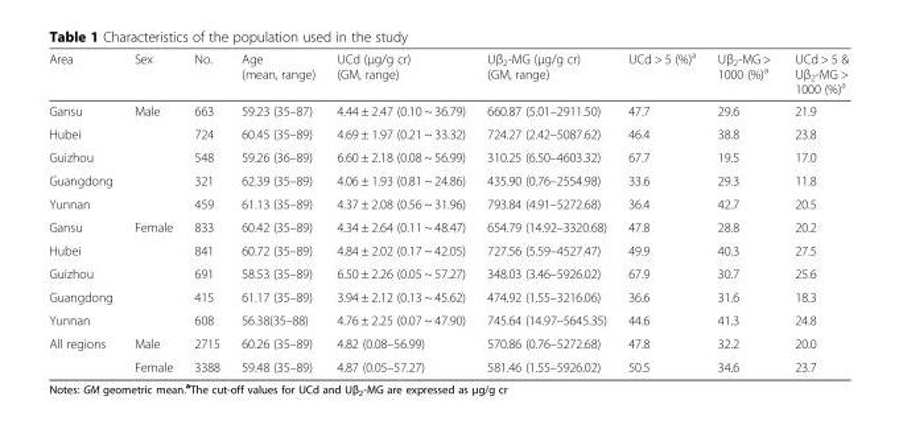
<table><thead><tr><td>Area</td><td>Sex</td><td>No.</td><td>Age (mean, range)</td><td>UCd (μg/g cr) (GM, range)</td><td>Uβ<sub>2</sub>-MG (μg/g cr) (GM, range)</td><td>UCd &gt; 5 (%)<sup>a</sup></td><td>Uβ<sub>2</sub>-MG &gt; 1000 (%)<sup>a</sup></td><td>UCd &gt; 5 &amp; Uβ<sub>2</sub>-MG &gt; 1000 (%)<sup>a</sup></td></tr></thead><tbody><tr><td>Gansu</td><td>Male</td><td>663</td><td>59.23 (35–87)</td><td>4.44 ± 2.47 (0.10 ~ 36.79)</td><td>660.87 (5.01–2911.50)</td><td>47.7</td><td>29.6</td><td>21.9</td></tr><tr><td>Hubei</td><td></td><td>724</td><td>60.45 (35–89)</td><td>4.69 ± 1.97 (0.21 ~ 33.32)</td><td>724.27 (2.42–5087.62)</td><td>46.4</td><td>38.8</td><td>23.8</td></tr><tr><td>Guizhou</td><td></td><td>548</td><td>59.26 (36–89)</td><td>6.60 ± 2.18 (0.08 ~ 56.99)</td><td>310.25 (6.50–4603.32)</td><td>67.7</td><td>19.5</td><td>17.0</td></tr><tr><td>Guangdong</td><td></td><td>321</td><td>62.39 (35–89)</td><td>4.06 ± 1.93 (0.81 ~ 24.86)</td><td>435.90 (0.76–2554.98)</td><td>33.6</td><td>29.3</td><td>11.8</td></tr><tr><td>Yunnan</td><td></td><td>459</td><td>61.13 (35–89)</td><td>4.37 ± 2.08 (0.56 ~ 31.96)</td><td>793.84 (4.91–5272.68)</td><td>36.4</td><td>42.7</td><td>20.5</td></tr><tr><td>Gansu</td><td>Female</td><td>833</td><td>60.42 (35–89)</td><td>4.34 ± 2.64 (0.11 ~ 48.47)</td><td>654.79 (14.92–3320.68)</td><td>47.8</td><td>28.8</td><td>20.2</td></tr><tr><td>Hubei</td><td></td><td>841</td><td>60.72 (35–89)</td><td>4.84 ± 2.02 (0.17 ~ 42.05)</td><td>727.56 (5.59–4527.47)</td><td>49.9</td><td>40.3</td><td>27.5</td></tr><tr><td>Guizhou</td><td></td><td>691</td><td>58.53 (35–89)</td><td>6.50 ± 2.26 (0.05 ~ 57.27)</td><td>348.03 (3.46–5926.02)</td><td>67.9</td><td>30.7</td><td>25.6</td></tr><tr><td>Guangdong</td><td></td><td>415</td><td>61.17 (35–89)</td><td>3.94 ± 2.12 (0.13 ~ 45.62)</td><td>474.92 (1.55–3216.06)</td><td>36.6</td><td>31.6</td><td>18.3</td></tr><tr><td>Yunnan</td><td></td><td>608</td><td>56.38(35–88)</td><td>4.76 ± 2.25 (0.07 ~ 47.90)</td><td>745.64 (14.97–5645.35)</td><td>44.6</td><td>41.3</td><td>24.8</td></tr><tr><td rowspan="2">All regions</td><td>Male</td><td>2715</td><td>60.26 (35–89)</td><td>4.82 (0.08–56.99)</td><td>570.86 (0.76–5272.68)</td><td>47.8</td><td>32.2</td><td>20.0</td></tr><tr><td>Female</td><td>3388</td><td>59.48 (35–89)</td><td>4.87 (0.05–57.27)</td><td>581.46 (1.55–5926.02)</td><td>50.5</td><td>34.6</td><td>23.7</td></tr></tbody></table>